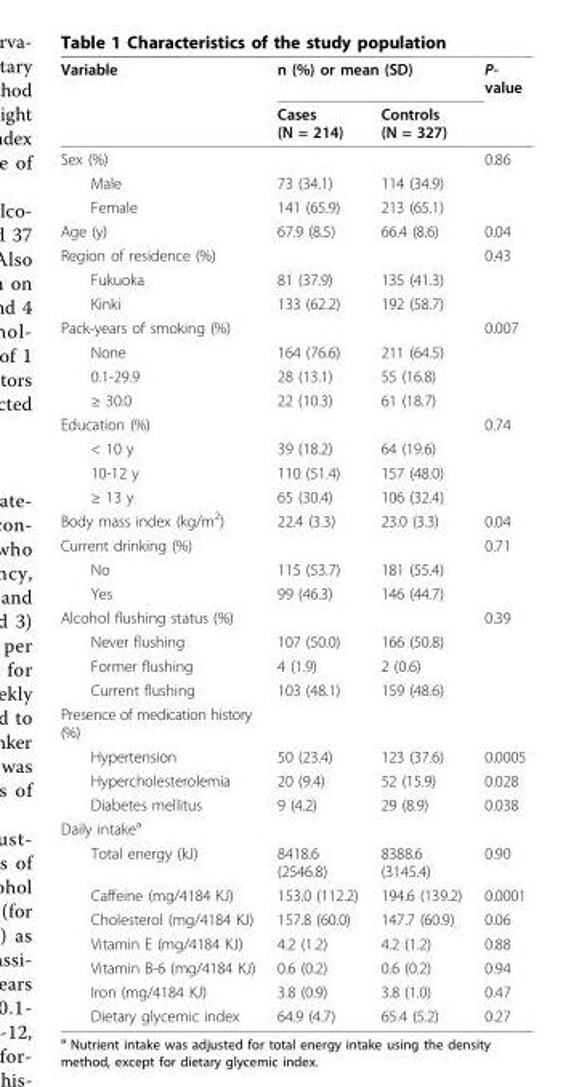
<table><thead><tr><td rowspan="2">Variable</td><td colspan="2">n (%) or mean (SD)</td><td rowspan="2">P- value</td></tr><tr><td>Cases (N = 214)</td><td>Controls (N = 327)</td></tr></thead><tbody><tr><td>Sex (%)</td><td></td><td></td><td>0.86</td></tr><tr><td>Male</td><td>73 (34.1)</td><td>114 (34.9)</td><td></td></tr><tr><td>Female</td><td>141 (65.9)</td><td>213 (65.1)</td><td></td></tr><tr><td>Age (y)</td><td>67.9 (8.5)</td><td>66.4 (8.6)</td><td>0.04</td></tr><tr><td>Region of residence (%)</td><td></td><td></td><td>0.43</td></tr><tr><td>Fukuoka</td><td>81 (37.9)</td><td>135 (41.3)</td><td></td></tr><tr><td>Kinki</td><td>133 (62.2)</td><td>192 (58.7)</td><td></td></tr><tr><td>Pack-years of smoking (%)</td><td></td><td></td><td>0.007</td></tr><tr><td>None</td><td>164 (76.6)</td><td>211 (64.5)</td><td></td></tr><tr><td>0.1-29.9</td><td>28 (13.1)</td><td>55 (16.8)</td><td></td></tr><tr><td>≥ 30.0</td><td>22 (10.3)</td><td>61 (18.7)</td><td></td></tr><tr><td>Education (%)</td><td></td><td></td><td>0.74</td></tr><tr><td>&lt; 10 y</td><td>39 (18.2)</td><td>64 (19.6)</td><td></td></tr><tr><td>10-12 y</td><td>110 (51.4)</td><td>157 (48.0)</td><td></td></tr><tr><td>≥ 13 y</td><td>65 (30.4)</td><td>106 (32.4)</td><td></td></tr><tr><td>Body mass index (kg/m<sup>2</sup>)</td><td>22.4 (3.3)</td><td>23.0 (3.3)</td><td>0.04</td></tr><tr><td>Current drinking (%)</td><td></td><td></td><td>0.71</td></tr><tr><td>No</td><td>115 (53.7)</td><td>181 (55.4)</td><td></td></tr><tr><td>Yes</td><td>99 (46.3)</td><td>146 (44.7)</td><td></td></tr><tr><td>Alcohol flushing status (%)</td><td></td><td></td><td>0.39</td></tr><tr><td>Never flushing</td><td>107 (50.0)</td><td>166 (50.8)</td><td></td></tr><tr><td>Former flushing</td><td>4 (1.9)</td><td>2 (0.6)</td><td></td></tr><tr><td>Current flushing</td><td>103 (48.1)</td><td>159 (48.6)</td><td></td></tr><tr><td colspan="4">Presence of medication history (%)</td></tr><tr><td>Hypertension</td><td>50 (23.4)</td><td>123 (37.6)</td><td>0.0005</td></tr><tr><td>Hypercholesterolemia</td><td>20 (9.4)</td><td>52 (15.9)</td><td>0.028</td></tr><tr><td>Diabetes mellitus</td><td>9 (4.2)</td><td>29 (8.9)</td><td>0.038</td></tr><tr><td colspan="4">Daily intake<sup>a</sup></td></tr><tr><td>Total energy (kJ)</td><td>8418.6 (2546.8)</td><td>8388.6 (3145.4)</td><td>0.90</td></tr><tr><td>Caffeine (mg/4184 KJ)</td><td>153.0 (112.2)</td><td>194.6 (139.2)</td><td>0.0001</td></tr><tr><td>Cholesterol (mg/4184 KJ)</td><td>157.8 (60.0)</td><td>147.7 (60.9)</td><td>0.06</td></tr><tr><td>Vitamin E (mg/4184 KJ)</td><td>4.2 (1.2)</td><td>4.2 (1.2)</td><td>0.88</td></tr><tr><td>Vitamin B-6 (mg/4184 KJ)</td><td>0.6 (0.2)</td><td>0.6 (0.2)</td><td>0.94</td></tr><tr><td>Iron (mg/4184 KJ)</td><td>3.8 (0.9)</td><td>3.8 (1.0)</td><td>0.47</td></tr><tr><td>Dietary glycemic index</td><td>64.9 (4.7)</td><td>65.4 (5.2)</td><td>0.27</td></tr></tbody></table>